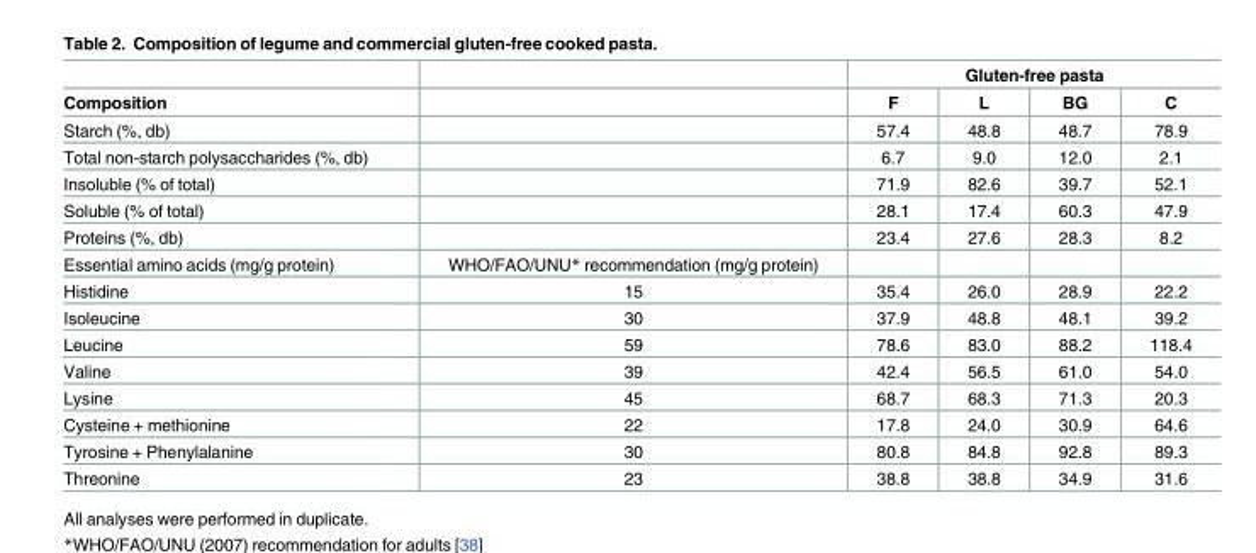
<table><thead><tr><td rowspan="2">Composition</td><td rowspan="2"></td><td colspan="4">Gluten-free pasta</td></tr><tr><td>F</td><td>L</td><td>BG</td><td>C</td></tr></thead><tbody><tr><td>Starch (%, db)</td><td></td><td>57.4</td><td>48.8</td><td>48.7</td><td>78.9</td></tr><tr><td>Total non-starch polysaccharides (%, db)</td><td></td><td>6.7</td><td>9.0</td><td>12.0</td><td>2.1</td></tr><tr><td>Insoluble (% of total)</td><td></td><td>71.9</td><td>82.6</td><td>39.7</td><td>52.1</td></tr><tr><td>Soluble (% of total)</td><td></td><td>28.1</td><td>17.4</td><td>60.3</td><td>47.9</td></tr><tr><td>Proteins (%, db)</td><td></td><td>23.4</td><td>27.6</td><td>28.3</td><td>8.2</td></tr><tr><td>Essential amino acids (mg/g protein)</td><td>WHO/FAO/UNU* recommendation (mg/g protein)</td><td></td><td></td><td></td><td></td></tr><tr><td>Histidine</td><td>15</td><td>35.4</td><td>26.0</td><td>28.9</td><td>22.2</td></tr><tr><td>Isoleucine</td><td>30</td><td>37.9</td><td>48.8</td><td>48.1</td><td>39.2</td></tr><tr><td>Leucine</td><td>59</td><td>78.6</td><td>83.0</td><td>88.2</td><td>118.4</td></tr><tr><td>Valine</td><td>39</td><td>42.4</td><td>56.5</td><td>61.0</td><td>54.0</td></tr><tr><td>Lysine</td><td>45</td><td>68.7</td><td>68.3</td><td>71.3</td><td>20.3</td></tr><tr><td>Cysteine + methionine</td><td>22</td><td>17.8</td><td>24.0</td><td>30.9</td><td>64.6</td></tr><tr><td>Tyrosine + Phenylalanine</td><td>30</td><td>80.8</td><td>84.8</td><td>92.8</td><td>89.3</td></tr><tr><td>Threonine</td><td>23</td><td>38.8</td><td>38.8</td><td>34.9</td><td>31.6</td></tr></tbody></table>